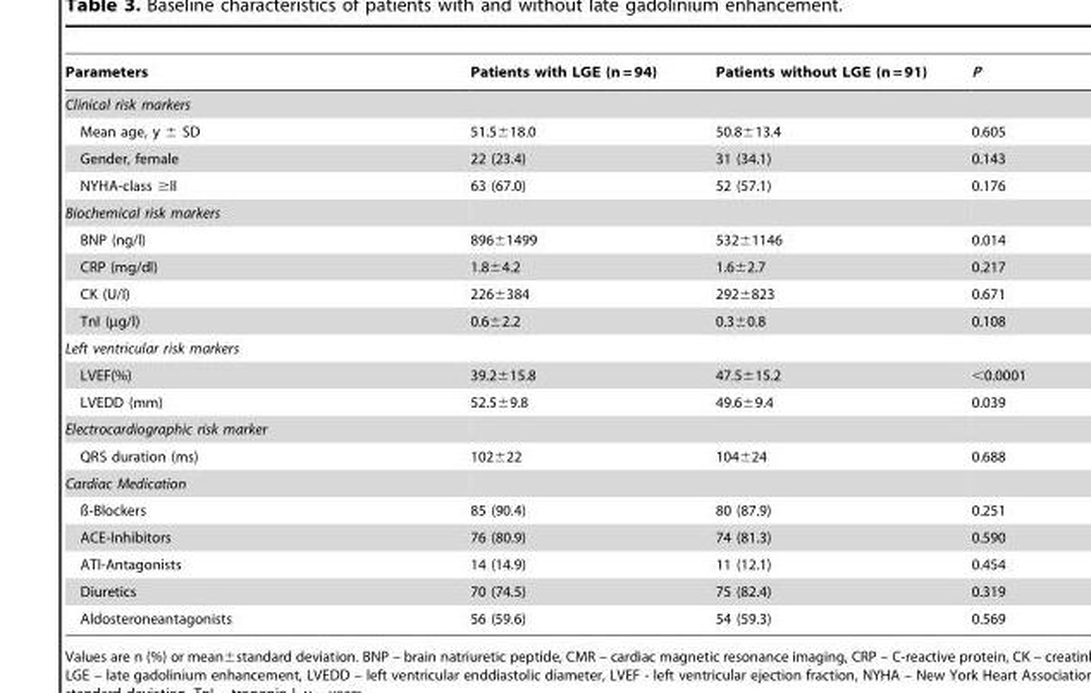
<table><thead><tr><td>Parameters</td><td>Patients with LGE (n = 94)</td><td>Patients without LGE (n = 91)</td><td>P</td></tr></thead><tbody><tr><td colspan="4">Clinical risk markers</td></tr><tr><td>Mean age, y ± SD</td><td>51.5±18.0</td><td>50.8±13.4</td><td>0.605</td></tr><tr><td>Gender, female</td><td>22 (23.4)</td><td>31 (34.1)</td><td>0.143</td></tr><tr><td>NYHA-class ≥II</td><td>63 (67.0)</td><td>52 (57.1)</td><td>0.176</td></tr><tr><td colspan="4">Biochemical risk markers</td></tr><tr><td>BNP (ng/l)</td><td>896±1499</td><td>532±1146</td><td>0.014</td></tr><tr><td>CRP (mg/dl)</td><td>1.8±4.2</td><td>1.6±2.7</td><td>0.217</td></tr><tr><td>CK (U/l)</td><td>226±384</td><td>292±823</td><td>0.671</td></tr><tr><td>TnI (µg/l)</td><td>0.6±2.2</td><td>0.3±0.8</td><td>0.108</td></tr><tr><td colspan="4">Left ventricular risk markers</td></tr><tr><td>LVEF(%)</td><td>39.2±15.8</td><td>47.5±15.2</td><td>&lt;0.0001</td></tr><tr><td>LVEDD (mm)</td><td>52.5±9.8</td><td>49.6±9.4</td><td>0.039</td></tr><tr><td colspan="4">Electrocardiographic risk marker</td></tr><tr><td>QRS duration (ms)</td><td>102±22</td><td>104±24</td><td>0.688</td></tr><tr><td colspan="4">Cardiac Medication</td></tr><tr><td>ß-Blockers</td><td>85 (90.4)</td><td>80 (87.9)</td><td>0.251</td></tr><tr><td>ACE-Inhibitors</td><td>76 (80.9)</td><td>74 (81.3)</td><td>0.590</td></tr><tr><td>ATI-Antagonists</td><td>14 (14.9)</td><td>11 (12.1)</td><td>0.454</td></tr><tr><td>Diuretics</td><td>70 (74.5)</td><td>75 (82.4)</td><td>0.319</td></tr><tr><td>Aldosteroneantagonists</td><td>56 (59.6)</td><td>54 (59.3)</td><td>0.569</td></tr></tbody></table>